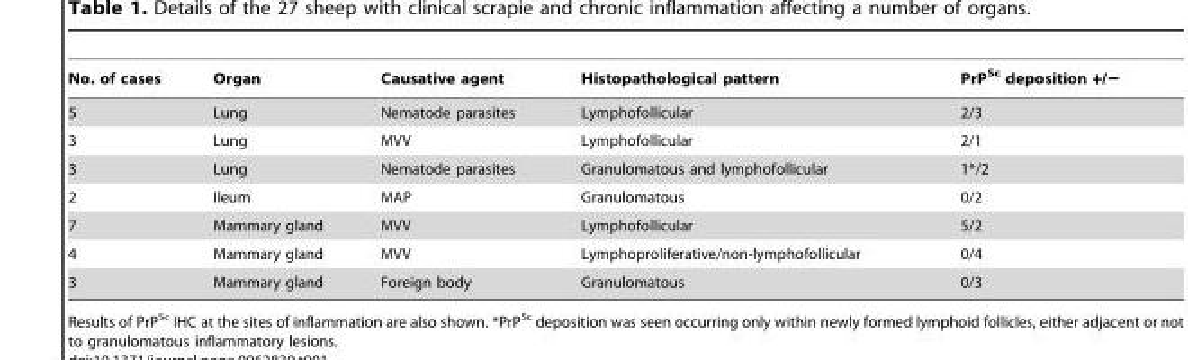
<table><thead><tr><td>No. of cases</td><td>Organ</td><td>Causative agent</td><td>Histopathological pattern</td><td>PrP<sup>Sc</sup> deposition +/−</td></tr></thead><tbody><tr><td>5</td><td>Lung</td><td>Nematode parasites</td><td>Lymphofollicular</td><td>2/3</td></tr><tr><td>3</td><td>Lung</td><td>MVV</td><td>Lymphofollicular</td><td>2/1</td></tr><tr><td>3</td><td>Lung</td><td>Nematode parasites</td><td>Granulomatous and lymphofollicular</td><td>1*/2</td></tr><tr><td>2</td><td>Ileum</td><td>MAP</td><td>Granulomatous</td><td>0/2</td></tr><tr><td>7</td><td>Mammary gland</td><td>MVV</td><td>Lymphofollicular</td><td>5/2</td></tr><tr><td>4</td><td>Mammary gland</td><td>MVV</td><td>Lymphoproliferative/non-lymphofollicular</td><td>0/4</td></tr><tr><td>3</td><td>Mammary gland</td><td>Foreign body</td><td>Granulomatous</td><td>0/3</td></tr></tbody></table>